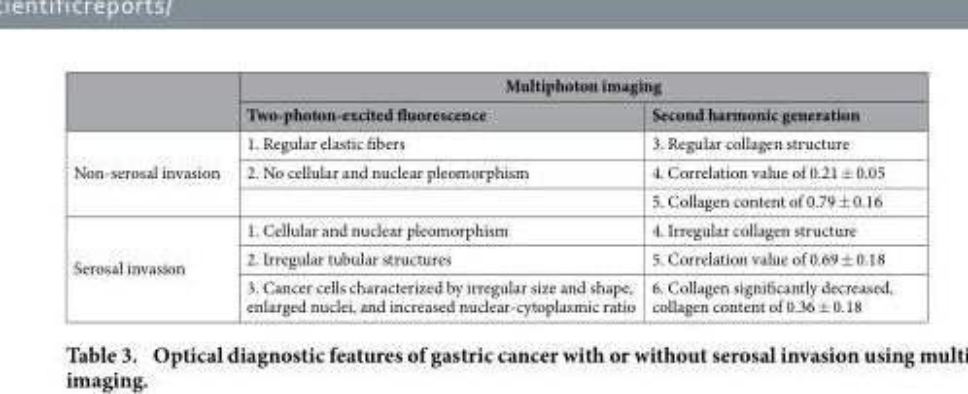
<table><thead><tr><td rowspan="2"></td><td colspan="2">Multiphoton imaging</td></tr><tr><td>Two-photon-excited fluorescence</td><td>Second harmonic generation</td></tr></thead><tbody><tr><td rowspan="3">Non-serosal invasion</td><td>1. Regular elastic fibers</td><td>3. Regular collagen structure</td></tr><tr><td>2. No cellular and nuclear pleomorphism</td><td>4. Correlation value of 0.21 ± 0.05</td></tr><tr><td></td><td>5. Collagen content of 0.79 ± 0.16</td></tr><tr><td rowspan="3">Serosal invasion</td><td>1. Cellular and nuclear pleomorphism</td><td>4. Irregular collagen structure</td></tr><tr><td>2. Irregular tubular structures</td><td>5. Correlation value of 0.69 ± 0.18</td></tr><tr><td>3. Cancer cells characterized by irregular size and shape, enlarged nuclei, and increased nuclear-cytoplasmic ratio</td><td>6. Collagen significantly decreased, collagen content of 0.36 ± 0.18</td></tr></tbody></table>